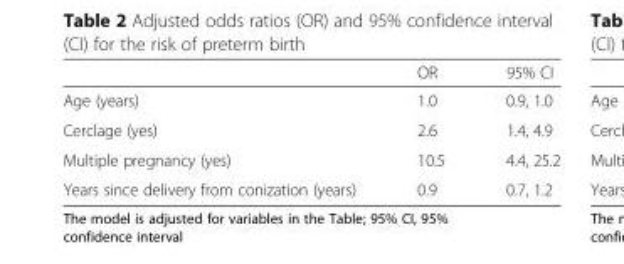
<table><thead><tr><td></td><td>OR</td><td>95% CI</td></tr></thead><tbody><tr><td>Age (years)</td><td>1.0</td><td>0.9, 1.0</td></tr><tr><td>Cerclage (yes)</td><td>2.6</td><td>1.4, 4.9</td></tr><tr><td>Multiple pregnancy (yes)</td><td>10.5</td><td>4.4, 25.2</td></tr><tr><td>Years since delivery from conization (years)</td><td>0.9</td><td>0.7, 1.2</td></tr></tbody></table>